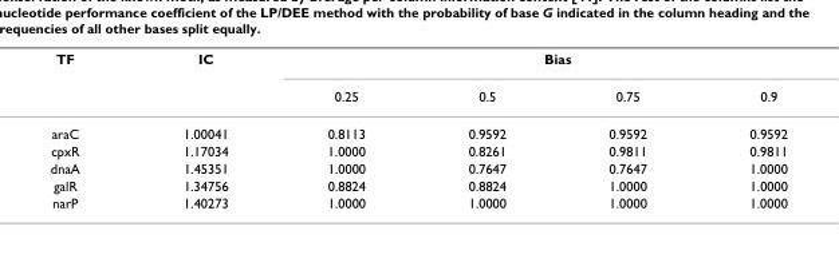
<table><thead><tr><td rowspan="2">TF</td><td rowspan="2">IC</td><td colspan="4">Bias</td></tr><tr><td>0.25</td><td>0.5</td><td>0.75</td><td>0.9</td></tr></thead><tbody><tr><td>araC</td><td>1.00041</td><td>0.8113</td><td>0.9592</td><td>0.9592</td><td>0.9592</td></tr><tr><td>cpxR</td><td>1.17034</td><td>1.0000</td><td>0.8261</td><td>0.9811</td><td>0.9811</td></tr><tr><td>dnaA</td><td>1.45351</td><td>1.0000</td><td>0.7647</td><td>0.7647</td><td>1.0000</td></tr><tr><td>galR</td><td>1.34756</td><td>0.8824</td><td>0.8824</td><td>1.0000</td><td>1.0000</td></tr><tr><td>narP</td><td>1.40273</td><td>1.0000</td><td>1.0000</td><td>1.0000</td><td>1.0000</td></tr></tbody></table>